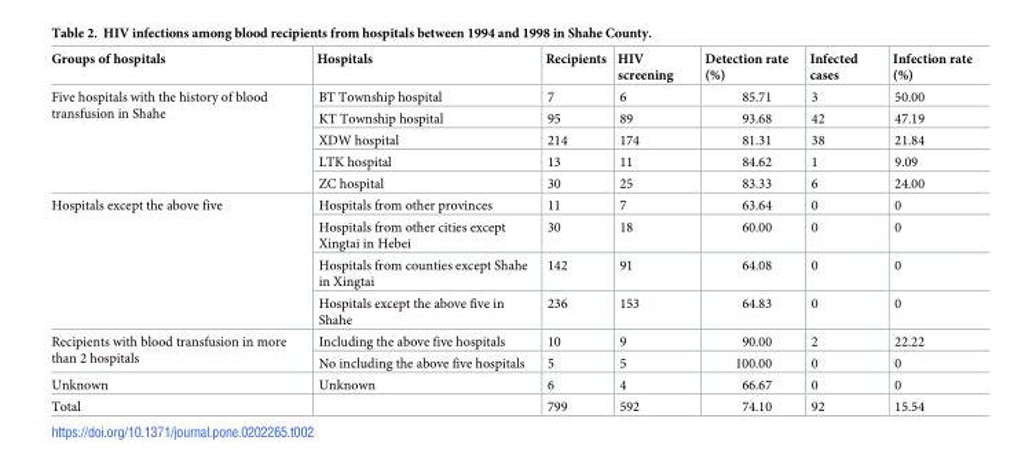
<table><thead><tr><td>Groups of hospitals</td><td>Hospitals</td><td>Recipients</td><td>HIV screening</td><td>Detection rate (%)</td><td>Infected cases</td><td>Infection rate (%)</td></tr></thead><tbody><tr><td rowspan="5">Five hospitals with the history of blood transfusion in Shahe</td><td>BT Township hospital</td><td>7</td><td>6</td><td>85.71</td><td>3</td><td>50.00</td></tr><tr><td>KT Township hospital</td><td>95</td><td>89</td><td>93.68</td><td>42</td><td>47.19</td></tr><tr><td>XDW hospital</td><td>214</td><td>174</td><td>81.31</td><td>38</td><td>21.84</td></tr><tr><td>LTK hospital</td><td>13</td><td>11</td><td>84.62</td><td>1</td><td>9.09</td></tr><tr><td>ZC hospital</td><td>30</td><td>25</td><td>83.33</td><td>6</td><td>24.00</td></tr><tr><td rowspan="4">Hospitals except the above five</td><td>Hospitals from other provinces</td><td>11</td><td>7</td><td>63.64</td><td>0</td><td>0</td></tr><tr><td>Hospitals from other cities except Xingtai in Hebei</td><td>30</td><td>18</td><td>60.00</td><td>0</td><td>0</td></tr><tr><td>Hospitals from counties except Shahe in Xingtai</td><td>142</td><td>91</td><td>64.08</td><td>0</td><td>0</td></tr><tr><td>Hospitals except the above five in Shahe</td><td>236</td><td>153</td><td>64.83</td><td>0</td><td>0</td></tr><tr><td rowspan="2">Recipients with blood transfusion in more than 2 hospitals</td><td>Including the above five hospitals</td><td>10</td><td>9</td><td>90.00</td><td>2</td><td>22.22</td></tr><tr><td>No including the above five hospitals</td><td>5</td><td>5</td><td>100.00</td><td>0</td><td>0</td></tr><tr><td>Unknown</td><td>Unknown</td><td>6</td><td>4</td><td>66.67</td><td>0</td><td>0</td></tr><tr><td>Total</td><td></td><td>799</td><td>592</td><td>74.10</td><td>92</td><td>15.54</td></tr></tbody></table>